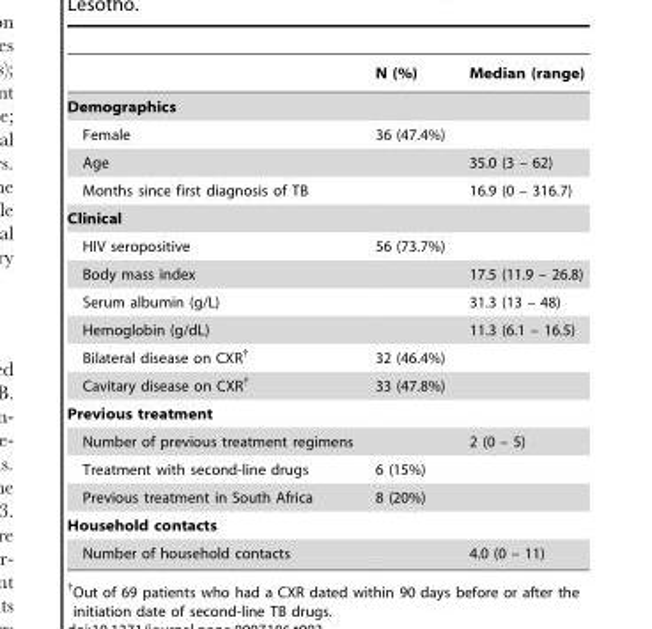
<table><thead><tr><td></td><td>N (%)</td><td>Median (range)</td></tr></thead><tbody><tr><td colspan="3">Demographics</td></tr><tr><td>Female</td><td>36 (47.4%)</td><td></td></tr><tr><td>Age</td><td></td><td>35.0 (3 – 62)</td></tr><tr><td>Months since first diagnosis of TB</td><td></td><td>16.9 (0 – 316.7)</td></tr><tr><td colspan="3">Clinical</td></tr><tr><td>HIV seropositive</td><td>56 (73.7%)</td><td></td></tr><tr><td>Body mass index</td><td></td><td>17.5 (11.9 – 26.8)</td></tr><tr><td>Serum albumin (g/L)</td><td></td><td>31.3 (13 – 48)</td></tr><tr><td>Hemoglobin (g/dL)</td><td></td><td>11.3 (6.1 – 16.5)</td></tr><tr><td>Bilateral disease on CXR†</td><td>32 (46.4%)</td><td></td></tr><tr><td>Cavitary disease on CXR†</td><td>33 (47.8%)</td><td></td></tr><tr><td colspan="3">Previous treatment</td></tr><tr><td>Number of previous treatment regimens</td><td></td><td>2 (0 – 5)</td></tr><tr><td>Treatment with second-line drugs</td><td>6 (15%)</td><td></td></tr><tr><td>Previous treatment in South Africa</td><td>8 (20%)</td><td></td></tr><tr><td colspan="3">Household contacts</td></tr><tr><td>Number of household contacts</td><td></td><td>4.0 (0 – 11)</td></tr></tbody></table>